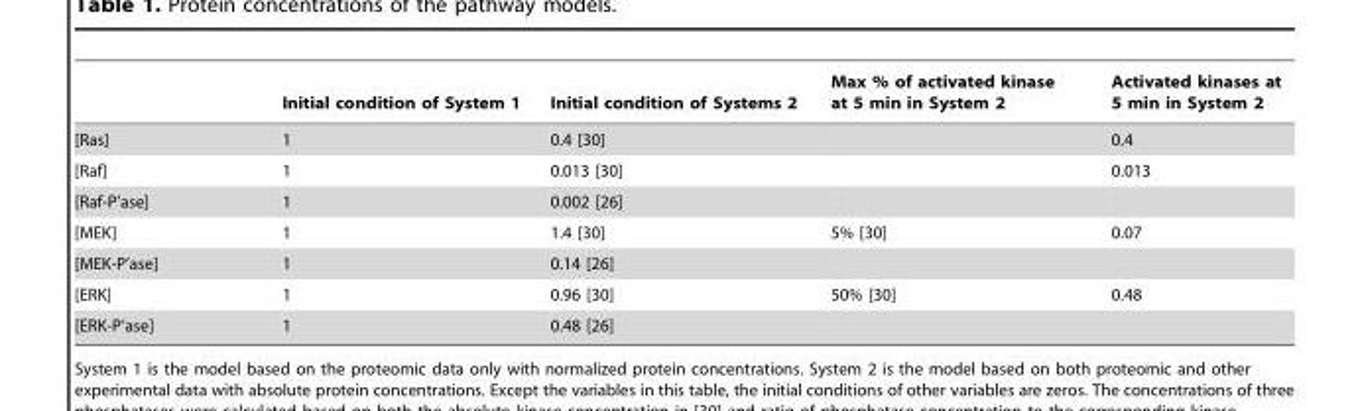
<table><thead><tr><td></td><td>Initial condition of System 1</td><td>Initial condition of Systems 2</td><td>Max % of activated kinase at 5 min in System 2</td><td>Activated kinases at 5 min in System 2</td></tr></thead><tbody><tr><td>[Ras]</td><td>1</td><td>0.4 [30]</td><td></td><td>0.4</td></tr><tr><td>[Raf]</td><td>1</td><td>0.013 [30]</td><td></td><td>0.013</td></tr><tr><td>[Raf-P’ase]</td><td>1</td><td>0.002 [26]</td><td></td><td></td></tr><tr><td>[MEK]</td><td>1</td><td>1.4 [30]</td><td>5% [30]</td><td>0.07</td></tr><tr><td>[MEK-P’ase]</td><td>1</td><td>0.14 [26]</td><td></td><td></td></tr><tr><td>[ERK]</td><td>1</td><td>0.96 [30]</td><td>50% [30]</td><td>0.48</td></tr><tr><td>[ERK-P’ase]</td><td>1</td><td>0.48 [26]</td><td></td><td></td></tr></tbody></table>